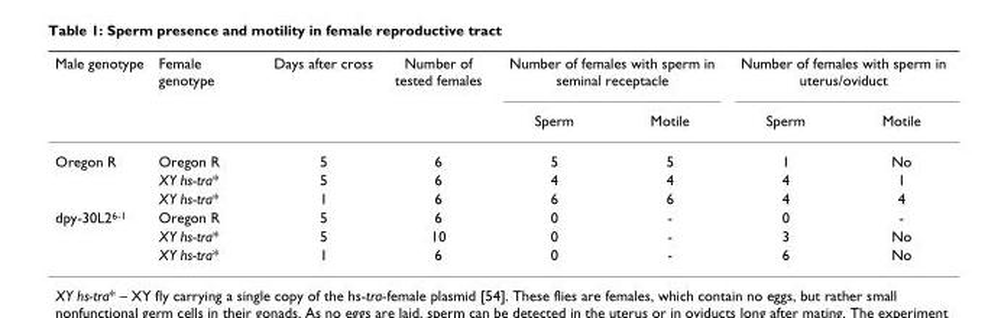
<table><thead><tr><td rowspan="2">Male genotype</td><td rowspan="2">Female genotype</td><td rowspan="2">Days after cross</td><td rowspan="2">Number of tested females</td><td colspan="2">Number of females with sperm in seminal receptacle</td><td colspan="2">Number of females with sperm in uterus/oviduct</td></tr><tr><td>Sperm</td><td>Motile</td><td>Sperm</td><td>Motile</td></tr></thead><tbody><tr><td rowspan="3">Oregon R</td><td>Oregon R</td><td>5</td><td>6</td><td>5</td><td>5</td><td>1</td><td>No</td></tr><tr><td>XY hs-tra*</td><td>5</td><td>6</td><td>4</td><td>4</td><td>4</td><td>1</td></tr><tr><td>XY hs-tra*</td><td>1</td><td>6</td><td>6</td><td>6</td><td>4</td><td>4</td></tr><tr><td rowspan="3">dpy-30L2<sup>6-1</sup></td><td>Oregon R</td><td>5</td><td>6</td><td>0</td><td>-</td><td>0</td><td>-</td></tr><tr><td>XY hs-tra*</td><td>5</td><td>10</td><td>0</td><td>-</td><td>3</td><td>No</td></tr><tr><td>XY hs-tra*</td><td>1</td><td>6</td><td>0</td><td>-</td><td>6</td><td>No</td></tr></tbody></table>